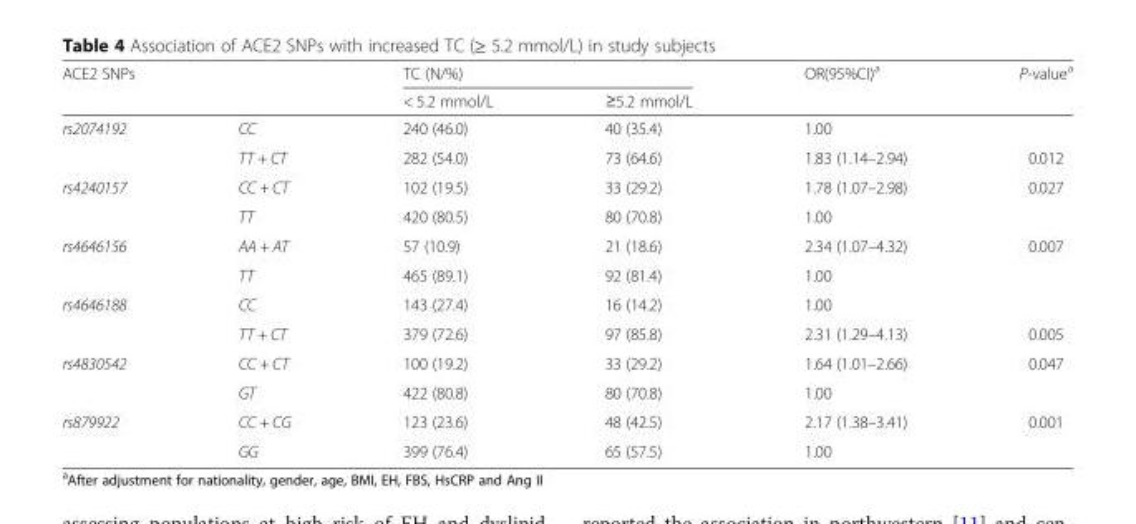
<table><thead><tr><td rowspan="2" colspan="2">ACE2 SNPs</td><td colspan="2">TC (N/%)</td><td rowspan="3">OR(95%CI)<sup>a</sup> 1.00</td><td rowspan="3">P-value<sup>a</sup></td></tr><tr><td rowspan="2">&lt; 5.2 mmol/L 240 (46.0)</td><td rowspan="2">≥5.2 mmol/L 40 (35.4)</td></tr><tr><td>rs2074192</td><td>CC</td></tr></thead><tbody><tr><td></td><td>TT + CT</td><td>282 (54.0)</td><td>73 (64.6)</td><td>1.83 (1.14–2.94)</td><td>0.012</td></tr><tr><td rowspan="2">rs4240157</td><td>CC + CT</td><td>102 (19.5)</td><td>33 (29.2)</td><td>1.78 (1.07–2.98)</td><td>0.027</td></tr><tr><td>TT</td><td>420 (80.5)</td><td>80 (70.8)</td><td>1.00</td><td></td></tr><tr><td rowspan="2">rs4646156</td><td>AA + AT</td><td>57 (10.9)</td><td>21 (18.6)</td><td>2.34 (1.07–4.32)</td><td>0.007</td></tr><tr><td>TT</td><td>465 (89.1)</td><td>92 (81.4)</td><td>1.00</td><td></td></tr><tr><td rowspan="2">rs4646188</td><td>CC</td><td>143 (27.4)</td><td>16 (14.2)</td><td>1.00</td><td></td></tr><tr><td>TT + CT</td><td>379 (72.6)</td><td>97 (85.8)</td><td>2.31 (1.29–4.13)</td><td>0.005</td></tr><tr><td rowspan="2">rs4830542</td><td>CC + CT</td><td>100 (19.2)</td><td>33 (29.2)</td><td>1.64 (1.01–2.66)</td><td>0.047</td></tr><tr><td>GT</td><td>422 (80.8)</td><td>80 (70.8)</td><td>1.00</td><td></td></tr><tr><td rowspan="2">rs879922</td><td>CC + CG</td><td>123 (23.6)</td><td>48 (42.5)</td><td>2.17 (1.38–3.41)</td><td>0.001</td></tr><tr><td>GG</td><td>399 (76.4)</td><td>65 (57.5)</td><td>1.00</td><td></td></tr></tbody></table>